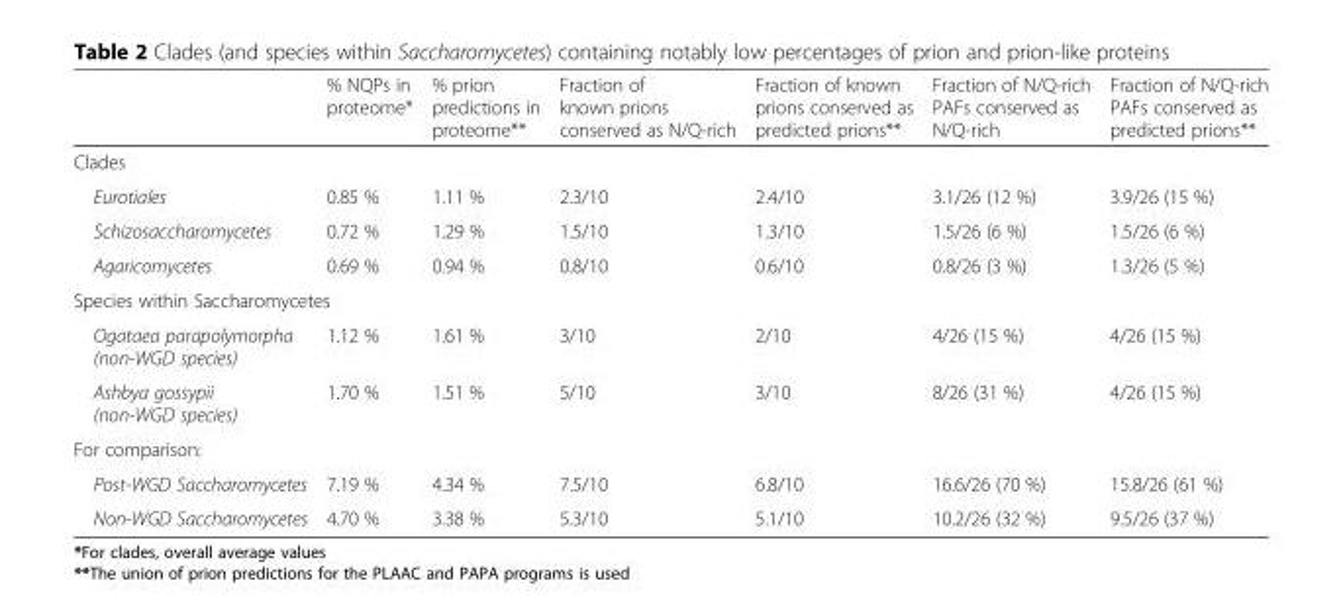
<table><thead><tr><td></td><td>% NQPs in proteome*</td><td>% prion predictions in proteome**</td><td>Fraction of known prions conserved as N/Q-rich</td><td>Fraction of known prions conserved as predicted prions**</td><td>Fraction of N/Q-rich PAFs conserved as N/Q-rich</td><td>Fraction of N/Q-rich PAFs conserved as predicted prions**</td></tr></thead><tbody><tr><td colspan="7">Clades</td></tr><tr><td>Eurotiales</td><td>0.85 %</td><td>1.11 %</td><td>2.3/10</td><td>2.4/10</td><td>3.1/26 (12 %)</td><td>3.9/26 (15 %)</td></tr><tr><td>Schizosaccharomycetes</td><td>0.72 %</td><td>1.29 %</td><td>1.5/10</td><td>1.3/10</td><td>1.5/26 (6 %)</td><td>1.5/26 (6 %)</td></tr><tr><td>Agaricomycetes</td><td>0.69 %</td><td>0.94 %</td><td>0.8/10</td><td>0.6/10</td><td>0.8/26 (3 %)</td><td>1.3/26 (5 %)</td></tr><tr><td colspan="7">Species within Saccharomycetes</td></tr><tr><td>Ogataea parapolymorpha (non-WGD species)</td><td>1.12 %</td><td>1.61 %</td><td>3/10</td><td>2/10</td><td>4/26 (15 %)</td><td>4/26 (15 %)</td></tr><tr><td>Ashbya gossypii (non-WGD species)</td><td>1.70 %</td><td>1.51 %</td><td>5/10</td><td>3/10</td><td>8/26 (31 %)</td><td>4/26 (15 %)</td></tr><tr><td colspan="7">For comparison:</td></tr><tr><td>Post-WGD Saccharomycetes</td><td>7.19 %</td><td>4.34 %</td><td>7.5/10</td><td>6.8/10</td><td>16.6/26 (70 %)</td><td>15.8/26 (61 %)</td></tr><tr><td>Non-WGD Saccharomycetes</td><td>4.70 %</td><td>3.38 %</td><td>5.3/10</td><td>5.1/10</td><td>10.2/26 (32 %)</td><td>9.5/26 (37 %)</td></tr></tbody></table>